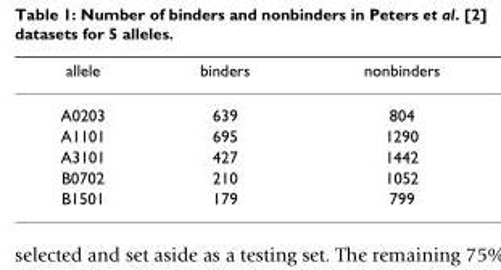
<table><thead><tr><td>allele</td><td>binders</td><td>nonbinders</td></tr></thead><tbody><tr><td>A0203</td><td>639</td><td>804</td></tr><tr><td>A1101</td><td>695</td><td>1290</td></tr><tr><td>A3101</td><td>427</td><td>1442</td></tr><tr><td>B0702</td><td>210</td><td>1052</td></tr><tr><td>B1501</td><td>179</td><td>799</td></tr></tbody></table>